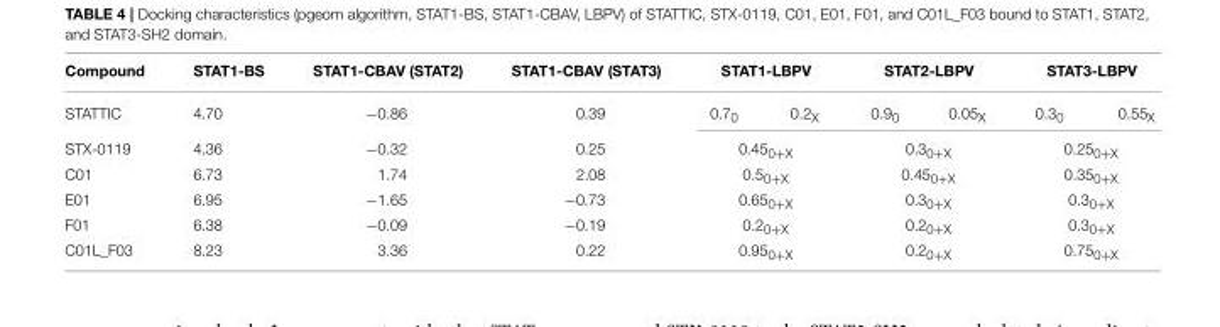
<table><thead><tr><td rowspan="2">Compound STATTIC</td><td rowspan="2">STAT1-BS 4.70</td><td rowspan="2">STAT1-CBAV (STAT2) −0.86</td><td rowspan="2">STAT1-CBAV (STAT3) 0.39</td><td colspan="2">STAT1-LBPV</td><td colspan="2">STAT2-LBPV</td><td colspan="2">STAT3-LBPV</td></tr><tr><td>0.7<sub>0</sub></td><td>0.2<sub>X</sub></td><td>0.9<sub>0</sub></td><td>0.05<sub>X</sub></td><td>0.3<sub>0</sub></td><td>0.55<sub>X</sub></td></tr></thead><tbody><tr><td>STX-0119</td><td>4.36</td><td>−0.32</td><td>0.25</td><td colspan="2">0.45<sub>0+X</sub></td><td colspan="2">0.3<sub>0+X</sub></td><td colspan="2">0.25<sub>0+X</sub></td></tr><tr><td>C01</td><td>6.73</td><td>1.74</td><td>2.08</td><td colspan="2">0.5<sub>0+X</sub></td><td colspan="2">0.45<sub>0+X</sub></td><td colspan="2">0.35<sub>0+X</sub></td></tr><tr><td>E01</td><td>6.95</td><td>−1.65</td><td>−0.73</td><td colspan="2">0.65<sub>0+X</sub></td><td colspan="2">0.3<sub>0+X</sub></td><td colspan="2">0.3<sub>0+X</sub></td></tr><tr><td>F01</td><td>6.38</td><td>−0.09</td><td>−0.19</td><td colspan="2">0.2<sub>0+X</sub></td><td colspan="2">0.2<sub>0+X</sub></td><td colspan="2">0.3<sub>0+X</sub></td></tr><tr><td>C01L_F03</td><td>8.23</td><td>3.36</td><td>0.22</td><td colspan="2">0.95<sub>0+X</sub></td><td colspan="2">0.2<sub>0+X</sub></td><td colspan="2">0.75<sub>0+X</sub></td></tr></tbody></table>